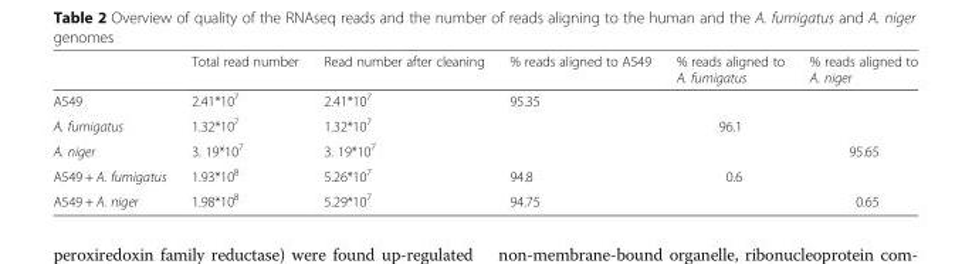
<table><thead><tr><td></td><td>Total read number</td><td>Read number after cleaning</td><td>% reads aligned to A549</td><td>% reads aligned to A. fumigatus</td><td>% reads aligned to A. niger</td></tr></thead><tbody><tr><td>A549</td><td>2.41*10<sup>7</sup></td><td>2.41*10<sup>7</sup></td><td>95.35</td><td></td><td></td></tr><tr><td>A. fumigatus</td><td>1.32*10<sup>7</sup></td><td>1.32*10<sup>7</sup></td><td></td><td>96.1</td><td></td></tr><tr><td>A. niger</td><td>3. 19*10<sup>7</sup></td><td>3. 19*10<sup>7</sup></td><td></td><td></td><td>95.65</td></tr><tr><td>A549 + A. fumigatus</td><td>1.93*10<sup>8</sup></td><td>5.26*10<sup>7</sup></td><td>94.8</td><td>0.6</td><td></td></tr><tr><td>A549 + A. niger</td><td>1.98*10<sup>8</sup></td><td>5.29*10<sup>7</sup></td><td>94.75</td><td></td><td>0.65</td></tr></tbody></table>